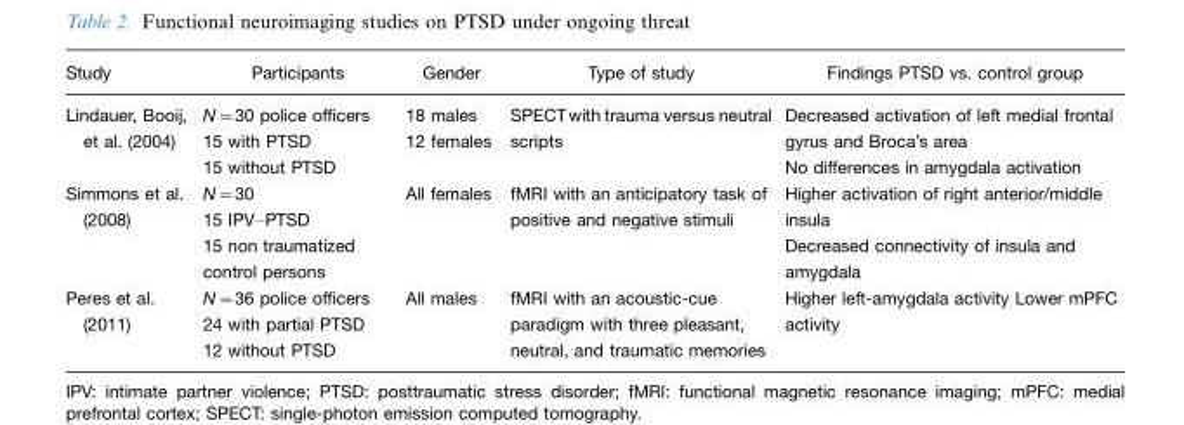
<table><thead><tr><td>Study</td><td>Participants</td><td>Gender</td><td>Type of study</td><td>Findings PTSD vs. control group</td></tr></thead><tbody><tr><td>Lindauer, Booij, et al. (2004)</td><td>N=30 police officers 15 with PTSD 15 without PTSD</td><td>18 males 12 females</td><td>SPECTwith trauma versus neutral scripts</td><td>Decreased activation of left medial frontal gyrus and Broca’s area No differences in amygdala activation</td></tr><tr><td>Simmons et al. (2008)</td><td>N=30 15 IPV–PTSD 15 non traumatized control persons</td><td>All females</td><td>fMRI with an anticipatory task of positive and negative stimuli</td><td>Higher activation of right anterior/middle insula Decreased connectivity of insula and amygdala</td></tr><tr><td>Peres et al. (2011)</td><td>N=36 police officers 24 with partial PTSD 12 without PTSD</td><td>All males</td><td>fMRI with an acoustic-cue paradigm with three pleasant, neutral, and traumatic memories</td><td>Higher left-amygdala activity Lower mPFC activity</td></tr></tbody></table>